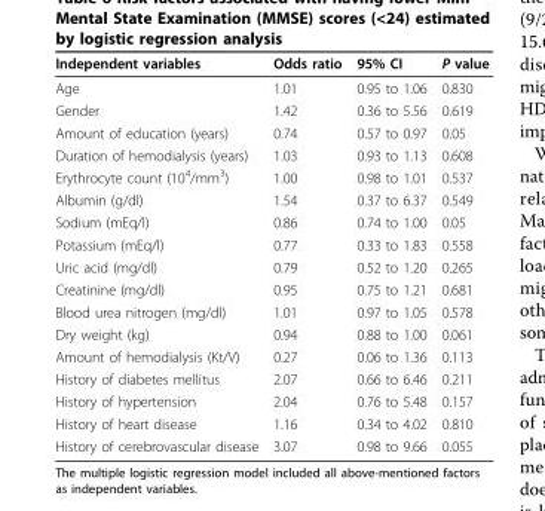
<table><thead><tr><td>Independent variables</td><td>Odds ratio</td><td>95% CI</td><td>P value</td></tr></thead><tbody><tr><td>Age</td><td>1.01</td><td>0.95 to 1.06</td><td>0.830</td></tr><tr><td>Gender</td><td>1.42</td><td>0.36 to 5.56</td><td>0.619</td></tr><tr><td>Amount of education (years)</td><td>0.74</td><td>0.57 to 0.97</td><td>0.05</td></tr><tr><td>Duration of hemodialysis (years)</td><td>1.03</td><td>0.93 to 1.13</td><td>0.608</td></tr><tr><td>Erythrocyte count (10<sup>4</sup>/mm<sup>3</sup>)</td><td>1.00</td><td>0.98 to 1.01</td><td>0.537</td></tr><tr><td>Albumin (g/dl)</td><td>1.54</td><td>0.37 to 6.37</td><td>0.549</td></tr><tr><td>Sodium (mEq/l)</td><td>0.86</td><td>0.74 to 1.00</td><td>0.05</td></tr><tr><td>Potassium (mEq/l)</td><td>0.77</td><td>0.33 to 1.83</td><td>0.558</td></tr><tr><td>Uric acid (mg/dl)</td><td>0.79</td><td>0.52 to 1.20</td><td>0.265</td></tr><tr><td>Creatinine (mg/dl)</td><td>0.95</td><td>0.75 to 1.21</td><td>0.681</td></tr><tr><td>Blood urea nitrogen (mg/dl)</td><td>1.01</td><td>0.97 to 1.05</td><td>0.578</td></tr><tr><td>Dry weight (kg)</td><td>0.94</td><td>0.88 to 1.00</td><td>0.061</td></tr><tr><td>Amount of hemodialysis (Kt/V)</td><td>0.27</td><td>0.06 to 1.36</td><td>0.113</td></tr><tr><td>History of diabetes mellitus</td><td>2.07</td><td>0.66 to 6.46</td><td>0.211</td></tr><tr><td>History of hypertension</td><td>2.04</td><td>0.76 to 5.48</td><td>0.157</td></tr><tr><td>History of heart disease</td><td>1.16</td><td>0.34 to 4.02</td><td>0.810</td></tr><tr><td>History of cerebrovascular disease</td><td>3.07</td><td>0.98 to 9.66</td><td>0.055</td></tr></tbody></table>